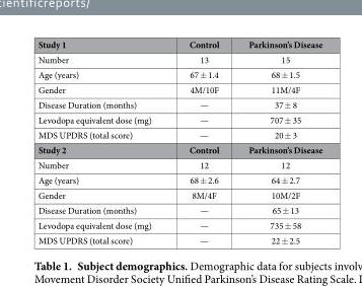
<table><thead><tr><td>Study 1</td><td>Control</td><td>Parkinson’s Disease</td></tr></thead><tbody><tr><td>Number</td><td>13</td><td>15</td></tr><tr><td>Age (years)</td><td>67 ± 1.4</td><td>68 ± 1.5</td></tr><tr><td>Gender</td><td>4M/10F</td><td>11M/4F</td></tr><tr><td>Disease Duration (months)</td><td>—</td><td>37 ± 8</td></tr><tr><td>Levodopa equivalent dose (mg)</td><td>—</td><td>707 ± 35</td></tr><tr><td>MDS UPDRS (total score)</td><td>—</td><td>20 ± 3</td></tr><tr><td>Study 2</td><td>Control</td><td>Parkinson’s Disease</td></tr><tr><td>Number</td><td>12</td><td>12</td></tr><tr><td>Age (years)</td><td>68 ± 2.6</td><td>64 ± 2.7</td></tr><tr><td>Gender</td><td>8M/4F</td><td>10M/2F</td></tr><tr><td>Disease Duration (months)</td><td>—</td><td>65 ± 13</td></tr><tr><td>Levodopa equivalent dose (mg)</td><td>—</td><td>735 ± 58</td></tr><tr><td>MDS UPDRS (total score)</td><td>—</td><td>22 ± 2.5</td></tr></tbody></table>